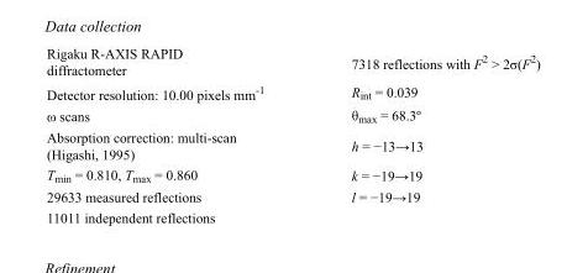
<table><tbody><tr><td>Rigaku R-AXIS RAPID diffractometer</td><td>7318 reflections with F<sup>2</sup> &gt; 2σ(F<sup>2</sup>)</td></tr><tr><td>Detector resolution: 10.00 pixels mm<sup>-1</sup></td><td>R<sub>int</sub> = 0.039</td></tr><tr><td>ω scans</td><td>θ<sub>max</sub> = 68.3º</td></tr><tr><td>Absorption correction: multi-scan (Higashi, 1995)</td><td>h = −13→13</td></tr><tr><td>T<sub>min</sub> = 0.810, T<sub>max</sub> = 0.860</td><td>k = −19→19</td></tr><tr><td>29633 measured reflections</td><td>l = −19→19</td></tr><tr><td>11011 independent reflections</td><td></td></tr></tbody></table>